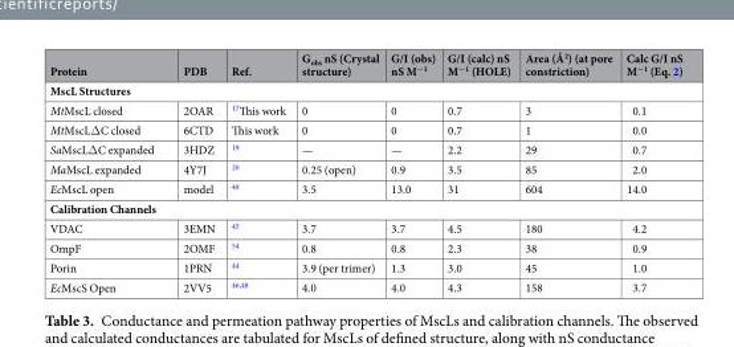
<table><thead><tr><td>Protein</td><td>PDB</td><td>Ref.</td><td>G<sub>obs</sub> nS (Crystal structure)</td><td>G/I (obs) nS M<sup>−1</sup></td><td>G/I (calc) nS M<sup>−1</sup> (HOLE)</td><td>Area (Å<sup>2</sup>) (at pore constriction)</td><td>Calc G/I nS M<sup>−1</sup> (Eq. 2)</td></tr></thead><tbody><tr><td colspan="8">MscL Structures</td></tr><tr><td>MtMscL closed</td><td>2OAR</td><td><sup>17</sup>This work</td><td>0</td><td>0</td><td>0.7</td><td>3</td><td>0.1</td></tr><tr><td>MtMscLΔC closed</td><td>6CTD</td><td>This work</td><td>0</td><td>0</td><td>0.7</td><td>1</td><td>0.0</td></tr><tr><td>SaMscLΔC expanded</td><td>3HDZ</td><td><sup>19</sup></td><td>—</td><td>—</td><td>2.2</td><td>29</td><td>0.7</td></tr><tr><td>MaMscL expanded</td><td>4Y7J</td><td><sup>20</sup></td><td>0.25 (open)</td><td>0.9</td><td>3.5</td><td>85</td><td>2.0</td></tr><tr><td>EcMscL open</td><td>model</td><td><sup>49</sup></td><td>3.5</td><td>13.0</td><td>31</td><td>604</td><td>14.0</td></tr><tr><td colspan="8">Calibration Channels</td></tr><tr><td>VDAC</td><td>3EMN</td><td><sup>45</sup></td><td>3.7</td><td>3.7</td><td>4.5</td><td>180</td><td>4.2</td></tr><tr><td>OmpF</td><td>2OMF</td><td><sup>54</sup></td><td>0.8</td><td>0.8</td><td>2.3</td><td>38</td><td>0.9</td></tr><tr><td>Porin</td><td>1PRN</td><td><sup>44</sup></td><td>3.9 (per trimer)</td><td>1.3</td><td>3.0</td><td>45</td><td>1.0</td></tr><tr><td>EcMscS Open</td><td>2VV5</td><td><sup>46,48</sup></td><td>4.0</td><td>4.0</td><td>4.3</td><td>158</td><td>3.7</td></tr></tbody></table>